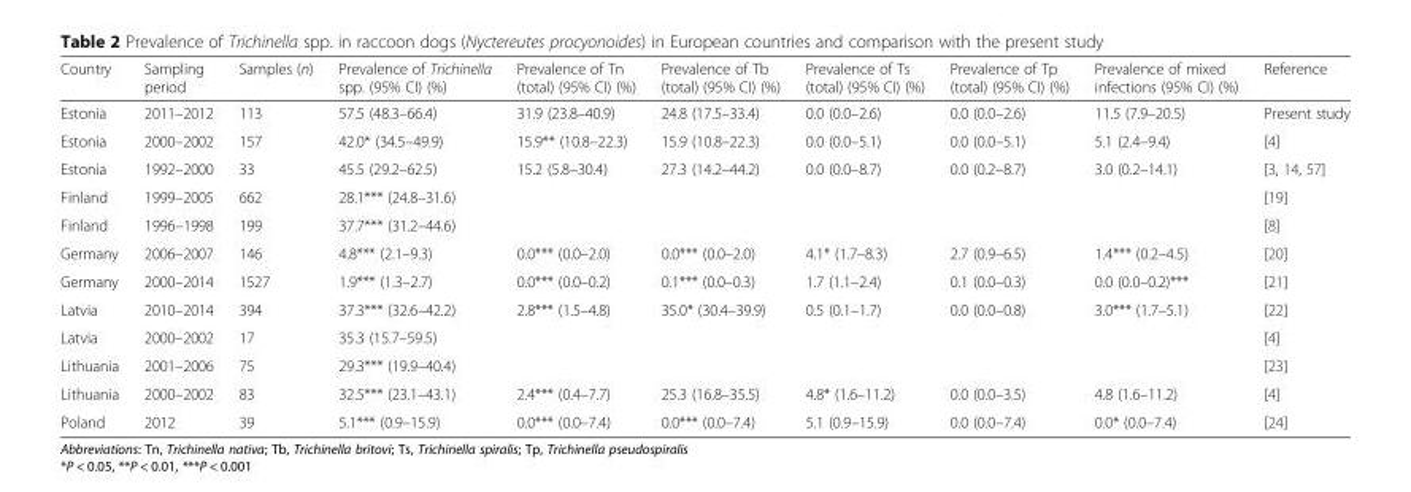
<table><thead><tr><td>Country</td><td>Sampling period</td><td>Samples (n)</td><td>Prevalence of Trichinella spp. (95% CI) (%)</td><td>Prevalence of Tn (total) (95% CI) (%)</td><td>Prevalence of Tb (total) (95% CI) (%)</td><td>Prevalence of Ts (total) (95% CI) (%)</td><td>Prevalence of Tp (total) (95% CI) (%)</td><td>Prevalence of mixed infections (95% CI) (%)</td><td>Reference</td></tr></thead><tbody><tr><td>Estonia</td><td>2011–2012</td><td>113</td><td>57.5 (48.3–66.4)</td><td>31.9 (23.8–40.9)</td><td>24.8 (17.5–33.4)</td><td>0.0 (0.0–2.6)</td><td>0.0 (0.0–2.6)</td><td>11.5 (7.9–20.5)</td><td>Present study</td></tr><tr><td>Estonia</td><td>2000–2002</td><td>157</td><td>42.0* (34.5–49.9)</td><td>15.9** (10.8–22.3)</td><td>15.9 (10.8–22.3)</td><td>0.0 (0.0–5.1)</td><td>0.0 (0.0–5.1)</td><td>5.1 (2.4–9.4)</td><td>[4]</td></tr><tr><td>Estonia</td><td>1992–2000</td><td>33</td><td>45.5 (29.2–62.5)</td><td>15.2 (5.8–30.4)</td><td>27.3 (14.2–44.2)</td><td>0.0 (0.0–8.7)</td><td>0.0 (0.2–8.7)</td><td>3.0 (0.2–14.1)</td><td>[3, 14, 57]</td></tr><tr><td>Finland</td><td>1999–2005</td><td>662</td><td>28.1*** (24.8–31.6)</td><td></td><td></td><td></td><td></td><td></td><td>[19]</td></tr><tr><td>Finland</td><td>1996–1998</td><td>199</td><td>37.7*** (31.2–44.6)</td><td></td><td></td><td></td><td></td><td></td><td>[8]</td></tr><tr><td>Germany</td><td>2006–2007</td><td>146</td><td>4.8*** (2.1–9.3)</td><td>0.0*** (0.0–2.0)</td><td>0.0*** (0.0–2.0)</td><td>4.1* (1.7–8.3)</td><td>2.7 (0.9–6.5)</td><td>1.4*** (0.2–4.5)</td><td>[20]</td></tr><tr><td>Germany</td><td>2000–2014</td><td>1527</td><td>1.9*** (1.3–2.7)</td><td>0.0*** (0.0–0.2)</td><td>0.1*** (0.0–0.3)</td><td>1.7 (1.1–2.4)</td><td>0.1 (0.0–0.3)</td><td>0.0 (0.0–0.2)***</td><td>[21]</td></tr><tr><td>Latvia</td><td>2010–2014</td><td>394</td><td>37.3*** (32.6–42.2)</td><td>2.8*** (1.5–4.8)</td><td>35.0* (30.4–39.9)</td><td>0.5 (0.1–1.7)</td><td>0.0 (0.0–0.8)</td><td>3.0*** (1.7–5.1)</td><td>[22]</td></tr><tr><td>Latvia</td><td>2000–2002</td><td>17</td><td>35.3 (15.7–59.5)</td><td></td><td></td><td></td><td></td><td></td><td>[4]</td></tr><tr><td>Lithuania</td><td>2001–2006</td><td>75</td><td>29.3*** (19.9–40.4)</td><td></td><td></td><td></td><td></td><td></td><td>[23]</td></tr><tr><td>Lithuania</td><td>2000–2002</td><td>83</td><td>32.5*** (23.1–43.1)</td><td>2.4*** (0.4–7.7)</td><td>25.3 (16.8–35.5)</td><td>4.8* (1.6–11.2)</td><td>0.0 (0.0–3.5)</td><td>4.8 (1.6–11.2)</td><td>[4]</td></tr><tr><td>Poland</td><td>2012</td><td>39</td><td>5.1*** (0.9–15.9)</td><td>0.0*** (0.0–7.4)</td><td>0.0*** (0.0–7.4)</td><td>5.1 (0.9–15.9)</td><td>0.0 (0.0–7.4)</td><td>0.0* (0.0–7.4)</td><td>[24]</td></tr></tbody></table>